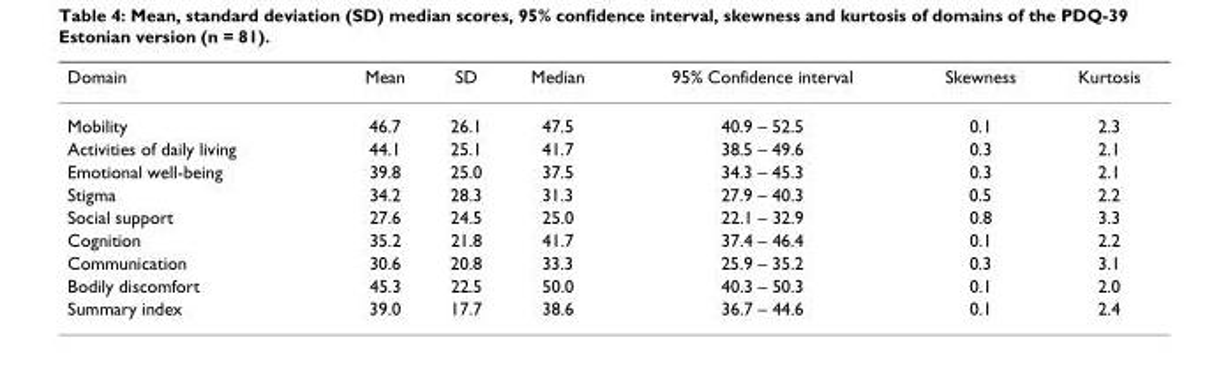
<table><thead><tr><td>Domain</td><td>Mean</td><td>SD</td><td>Median</td><td>95% Confidence interval</td><td>Skewness</td><td>Kurtosis</td></tr></thead><tbody><tr><td>Mobility</td><td>46.7</td><td>26.1</td><td>47.5</td><td>40.9 – 52.5</td><td>0.1</td><td>2.3</td></tr><tr><td>Activities of daily living</td><td>44.1</td><td>25.1</td><td>41.7</td><td>38.5 – 49.6</td><td>0.3</td><td>2.1</td></tr><tr><td>Emotional well-being</td><td>39.8</td><td>25.0</td><td>37.5</td><td>34.3 – 45.3</td><td>0.3</td><td>2.1</td></tr><tr><td>Stigma</td><td>34.2</td><td>28.3</td><td>31.3</td><td>27.9 – 40.3</td><td>0.5</td><td>2.2</td></tr><tr><td>Social support</td><td>27.6</td><td>24.5</td><td>25.0</td><td>22.1 – 32.9</td><td>0.8</td><td>3.3</td></tr><tr><td>Cognition</td><td>35.2</td><td>21.8</td><td>41.7</td><td>37.4 – 46.4</td><td>0.1</td><td>2.2</td></tr><tr><td>Communication</td><td>30.6</td><td>20.8</td><td>33.3</td><td>25.9 – 35.2</td><td>0.3</td><td>3.1</td></tr><tr><td>Bodily discomfort</td><td>45.3</td><td>22.5</td><td>50.0</td><td>40.3 – 50.3</td><td>0.1</td><td>2.0</td></tr><tr><td>Summary index</td><td>39.0</td><td>17.7</td><td>38.6</td><td>36.7 – 44.6</td><td>0.1</td><td>2.4</td></tr></tbody></table>